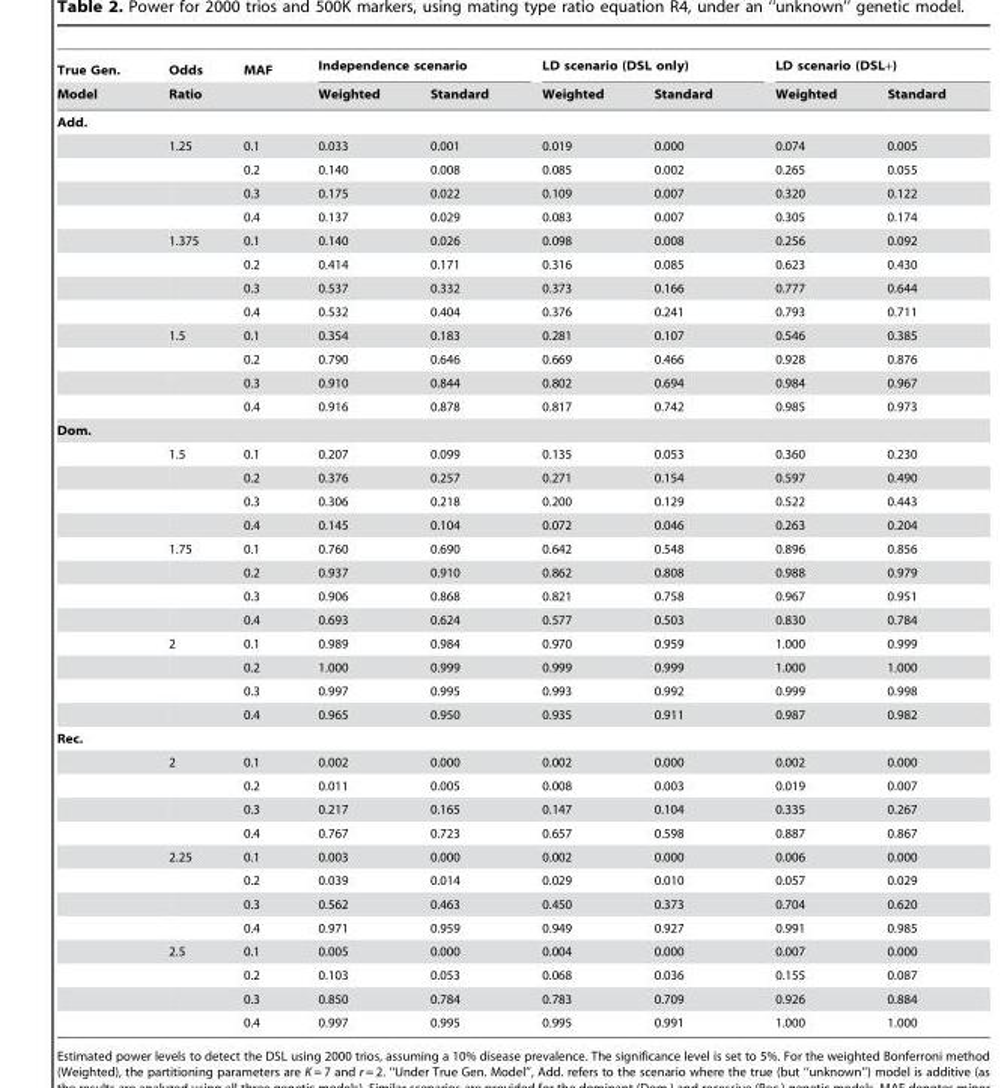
<table><thead><tr><td rowspan="2">True Gen. Model</td><td rowspan="2">Odds Ratio</td><td rowspan="2">MAF</td><td colspan="2">Independence scenario</td><td colspan="2">LD scenario (DSL only)</td><td colspan="2">LD scenario (DSL+)</td></tr><tr><td>Weighted</td><td>Standard</td><td>Weighted</td><td>Standard</td><td>Weighted</td><td>Standard</td></tr></thead><tbody><tr><td colspan="9">Add.</td></tr><tr><td></td><td>1.25</td><td>0.1</td><td>0.033</td><td>0.001</td><td>0.019</td><td>0.000</td><td>0.074</td><td>0.005</td></tr><tr><td></td><td></td><td>0.2</td><td>0.140</td><td>0.008</td><td>0.085</td><td>0.002</td><td>0.265</td><td>0.055</td></tr><tr><td></td><td></td><td>0.3</td><td>0.175</td><td>0.022</td><td>0.109</td><td>0.007</td><td>0.320</td><td>0.122</td></tr><tr><td></td><td></td><td>0.4</td><td>0.137</td><td>0.029</td><td>0.083</td><td>0.007</td><td>0.305</td><td>0.174</td></tr><tr><td></td><td>1.375</td><td>0.1</td><td>0.140</td><td>0.026</td><td>0.098</td><td>0.008</td><td>0.256</td><td>0.092</td></tr><tr><td></td><td></td><td>0.2</td><td>0.414</td><td>0.171</td><td>0.316</td><td>0.085</td><td>0.623</td><td>0.430</td></tr><tr><td></td><td></td><td>0.3</td><td>0.537</td><td>0.332</td><td>0.373</td><td>0.166</td><td>0.777</td><td>0.644</td></tr><tr><td></td><td></td><td>0.4</td><td>0.532</td><td>0.404</td><td>0.376</td><td>0.241</td><td>0.793</td><td>0.711</td></tr><tr><td></td><td>1.5</td><td>0.1</td><td>0.354</td><td>0.183</td><td>0.281</td><td>0.107</td><td>0.546</td><td>0.385</td></tr><tr><td></td><td></td><td>0.2</td><td>0.790</td><td>0.646</td><td>0.669</td><td>0.466</td><td>0.928</td><td>0.876</td></tr><tr><td></td><td></td><td>0.3</td><td>0.910</td><td>0.844</td><td>0.802</td><td>0.694</td><td>0.984</td><td>0.967</td></tr><tr><td></td><td></td><td>0.4</td><td>0.916</td><td>0.878</td><td>0.817</td><td>0.742</td><td>0.985</td><td>0.973</td></tr><tr><td colspan="9">Dom.</td></tr><tr><td></td><td>1.5</td><td>0.1</td><td>0.207</td><td>0.099</td><td>0.135</td><td>0.053</td><td>0.360</td><td>0.230</td></tr><tr><td></td><td></td><td>0.2</td><td>0.376</td><td>0.257</td><td>0.271</td><td>0.154</td><td>0.597</td><td>0.490</td></tr><tr><td></td><td></td><td>0.3</td><td>0.306</td><td>0.218</td><td>0.200</td><td>0.129</td><td>0.522</td><td>0.443</td></tr><tr><td></td><td></td><td>0.4</td><td>0.145</td><td>0.104</td><td>0.072</td><td>0.046</td><td>0.263</td><td>0.204</td></tr><tr><td></td><td>1.75</td><td>0.1</td><td>0.760</td><td>0.690</td><td>0.642</td><td>0.548</td><td>0.896</td><td>0.856</td></tr><tr><td></td><td></td><td>0.2</td><td>0.937</td><td>0.910</td><td>0.862</td><td>0.808</td><td>0.988</td><td>0.979</td></tr><tr><td></td><td></td><td>0.3</td><td>0.906</td><td>0.868</td><td>0.821</td><td>0.758</td><td>0.967</td><td>0.951</td></tr><tr><td></td><td></td><td>0.4</td><td>0.693</td><td>0.624</td><td>0.577</td><td>0.503</td><td>0.830</td><td>0.784</td></tr><tr><td></td><td>2</td><td>0.1</td><td>0.989</td><td>0.984</td><td>0.970</td><td>0.959</td><td>1.000</td><td>0.999</td></tr><tr><td></td><td></td><td>0.2</td><td>1.000</td><td>0.999</td><td>0.999</td><td>0.999</td><td>1.000</td><td>1.000</td></tr><tr><td></td><td></td><td>0.3</td><td>0.997</td><td>0.995</td><td>0.993</td><td>0.992</td><td>0.999</td><td>0.998</td></tr><tr><td></td><td></td><td>0.4</td><td>0.965</td><td>0.950</td><td>0.935</td><td>0.911</td><td>0.987</td><td>0.982</td></tr><tr><td colspan="9">Rec.</td></tr><tr><td></td><td>2</td><td>0.1</td><td>0.002</td><td>0.000</td><td>0.002</td><td>0.000</td><td>0.002</td><td>0.000</td></tr><tr><td></td><td></td><td>0.2</td><td>0.011</td><td>0.005</td><td>0.008</td><td>0.003</td><td>0.019</td><td>0.007</td></tr><tr><td></td><td></td><td>0.3</td><td>0.217</td><td>0.165</td><td>0.147</td><td>0.104</td><td>0.335</td><td>0.267</td></tr><tr><td></td><td></td><td>0.4</td><td>0.767</td><td>0.723</td><td>0.657</td><td>0.598</td><td>0.887</td><td>0.867</td></tr><tr><td></td><td>2.25</td><td>0.1</td><td>0.003</td><td>0.000</td><td>0.002</td><td>0.000</td><td>0.006</td><td>0.000</td></tr><tr><td></td><td></td><td>0.2</td><td>0.039</td><td>0.014</td><td>0.029</td><td>0.010</td><td>0.057</td><td>0.029</td></tr><tr><td></td><td></td><td>0.3</td><td>0.562</td><td>0.463</td><td>0.450</td><td>0.373</td><td>0.704</td><td>0.620</td></tr><tr><td></td><td></td><td>0.4</td><td>0.971</td><td>0.959</td><td>0.949</td><td>0.927</td><td>0.991</td><td>0.985</td></tr><tr><td></td><td>2.5</td><td>0.1</td><td>0.005</td><td>0.000</td><td>0.004</td><td>0.000</td><td>0.007</td><td>0.000</td></tr><tr><td></td><td></td><td>0.2</td><td>0.103</td><td>0.053</td><td>0.068</td><td>0.036</td><td>0.155</td><td>0.087</td></tr><tr><td></td><td></td><td>0.3</td><td>0.850</td><td>0.784</td><td>0.783</td><td>0.709</td><td>0.926</td><td>0.884</td></tr><tr><td></td><td></td><td>0.4</td><td>0.997</td><td>0.995</td><td>0.995</td><td>0.991</td><td>1.000</td><td>1.000</td></tr></tbody></table>